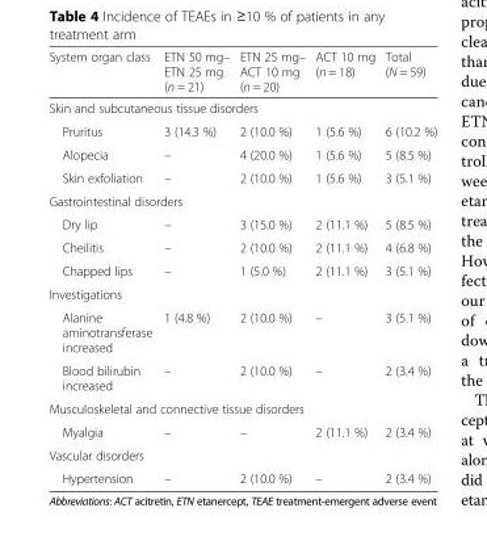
<table><thead><tr><td>System organ class</td><td>ETN 50 mg– ETN 25 mg (n = 21)</td><td>ETN 25 mg– ACT 10 mg (n = 20)</td><td>ACT 10 mg (n = 18)</td><td>Total (N = 59)</td></tr></thead><tbody><tr><td colspan="5">Skin and subcutaneous tissue disorders</td></tr><tr><td>Pruritus</td><td>3 (14.3 %)</td><td>2 (10.0 %)</td><td>1 (5.6 %)</td><td>6 (10.2 %)</td></tr><tr><td>Alopecia</td><td>–</td><td>4 (20.0 %)</td><td>1 (5.6 %)</td><td>5 (8.5 %)</td></tr><tr><td>Skin exfoliation</td><td>–</td><td>2 (10.0 %)</td><td>1 (5.6 %)</td><td>3 (5.1 %)</td></tr><tr><td colspan="5">Gastrointestinal disorders</td></tr><tr><td>Dry lip</td><td>–</td><td>3 (15.0 %)</td><td>2 (11.1 %)</td><td>5 (8.5 %)</td></tr><tr><td>Cheilitis</td><td>–</td><td>2 (10.0 %)</td><td>2 (11.1 %)</td><td>4 (6.8 %)</td></tr><tr><td>Chapped lips</td><td>–</td><td>1 (5.0 %)</td><td>2 (11.1 %)</td><td>3 (5.1 %)</td></tr><tr><td colspan="5">Investigations</td></tr><tr><td>Alanine aminotransferase increased</td><td>1 (4.8 %)</td><td>2 (10.0 %)</td><td>–</td><td>3 (5.1 %)</td></tr><tr><td>Blood bilirubin increased</td><td>–</td><td>2 (10.0 %)</td><td>–</td><td>2 (3.4 %)</td></tr><tr><td colspan="5">Musculoskeletal and connective tissue disorders</td></tr><tr><td>Myalgia</td><td>–</td><td>–</td><td>2 (11.1 %)</td><td>2 (3.4 %)</td></tr><tr><td colspan="5">Vascular disorders</td></tr><tr><td>Hypertension</td><td>–</td><td>2 (10.0 %)</td><td>–</td><td>2 (3.4 %)</td></tr></tbody></table>